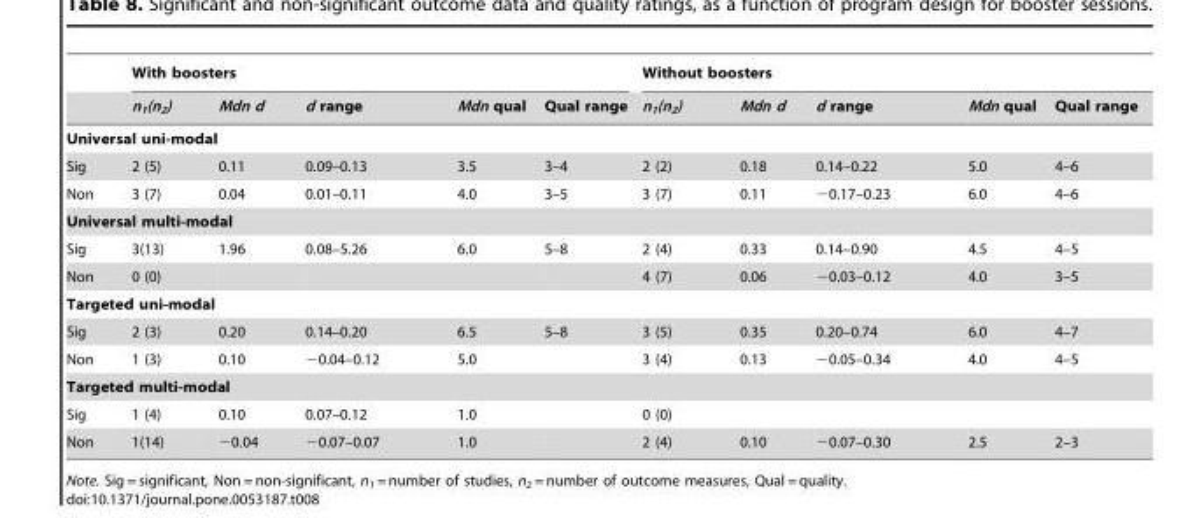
<table><thead><tr><td rowspan="2"></td><td colspan="5">With boosters</td><td colspan="5">Without boosters</td></tr><tr><td>n<sub>1</sub>(n<sub>2</sub>)</td><td>Mdn d</td><td>d range</td><td>Mdn qual</td><td>Qual range</td><td>n<sub>1</sub>(n<sub>2</sub>)</td><td>Mdn d</td><td>d range</td><td>Mdn qual</td><td>Qual range</td></tr></thead><tbody><tr><td colspan="11">Universal uni-modal</td></tr><tr><td>Sig</td><td>2 (5)</td><td>0.11</td><td>0.09–0.13</td><td>3.5</td><td>3–4</td><td>2 (2)</td><td>0.18</td><td>0.14–0.22</td><td>5.0</td><td>4–6</td></tr><tr><td>Non</td><td>3 (7)</td><td>0.04</td><td>0.01–0.11</td><td>4.0</td><td>3–5</td><td>3 (7)</td><td>0.11</td><td>−0.17–0.23</td><td>6.0</td><td>4–6</td></tr><tr><td colspan="11">Universal multi-modal</td></tr><tr><td>Sig</td><td>3(13)</td><td>1.96</td><td>0.08–5.26</td><td>6.0</td><td>5–8</td><td>2 (4)</td><td>0.33</td><td>0.14–0.90</td><td>4.5</td><td>4–5</td></tr><tr><td>Non</td><td>0 (0)</td><td></td><td></td><td></td><td></td><td>4 (7)</td><td>0.06</td><td>−0.03–0.12</td><td>4.0</td><td>3–5</td></tr><tr><td colspan="11">Targeted uni-modal</td></tr><tr><td>Sig</td><td>2 (3)</td><td>0.20</td><td>0.14–0.20</td><td>6.5</td><td>5–8</td><td>3 (5)</td><td>0.35</td><td>0.20–0.74</td><td>6.0</td><td>4–7</td></tr><tr><td>Non</td><td>1 (3)</td><td>0.10</td><td>−0.04–0.12</td><td>5.0</td><td></td><td>3 (4)</td><td>0.13</td><td>−0.05–0.34</td><td>4.0</td><td>4–5</td></tr><tr><td colspan="11">Targeted multi-modal</td></tr><tr><td>Sig</td><td>1 (4)</td><td>0.10</td><td>0.07–0.12</td><td>1.0</td><td></td><td>0 (0)</td><td></td><td></td><td></td><td></td></tr><tr><td>Non</td><td>1(14)</td><td>−0.04</td><td>−0.07–0.07</td><td>1.0</td><td></td><td>2 (4)</td><td>0.10</td><td>−0.07–0.30</td><td>2.5</td><td>2–3</td></tr></tbody></table>